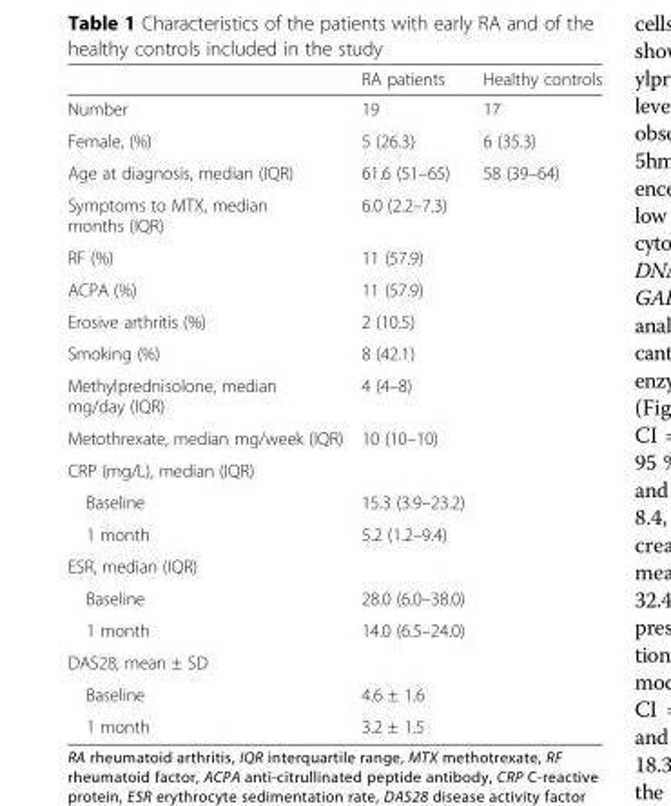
<table><thead><tr><td></td><td>RA patients</td><td>Healthy controls</td></tr></thead><tbody><tr><td>Number</td><td>19</td><td>17</td></tr><tr><td>Female, (%)</td><td>5 (26.3)</td><td>6 (35.3)</td></tr><tr><td>Age at diagnosis, median (IQR)</td><td>61.6 (51–65)</td><td>58 (39–64)</td></tr><tr><td>Symptoms to MTX, median months (IQR)</td><td>6.0 (2.2–7.3)</td><td></td></tr><tr><td>RF (%)</td><td>11 (57.9)</td><td></td></tr><tr><td>ACPA (%)</td><td>11 (57.9)</td><td></td></tr><tr><td>Erosive arthritis (%)</td><td>2 (10.5)</td><td></td></tr><tr><td>Smoking (%)</td><td>8 (42.1)</td><td></td></tr><tr><td>Methylprednisolone, median mg/day (IQR)</td><td>4 (4–8)</td><td></td></tr><tr><td>Metothrexate, median mg/week (IQR)</td><td>10 (10–10)</td><td></td></tr><tr><td colspan="3">CRP (mg/L), median (IQR)</td></tr><tr><td>Baseline</td><td>15.3 (3.9–23.2)</td><td></td></tr><tr><td>1 month</td><td>5.2 (1.2–9.4)</td><td></td></tr><tr><td colspan="3">ESR, median (IQR)</td></tr><tr><td>Baseline</td><td>28.0 (6.0–38.0)</td><td></td></tr><tr><td>1 month</td><td>14.0 (6.5–24.0)</td><td></td></tr><tr><td colspan="3">DAS28, mean ± SD</td></tr><tr><td>Baseline</td><td>4.6 ± 1.6</td><td></td></tr><tr><td>1 month</td><td>3.2 ± 1.5</td><td></td></tr></tbody></table>